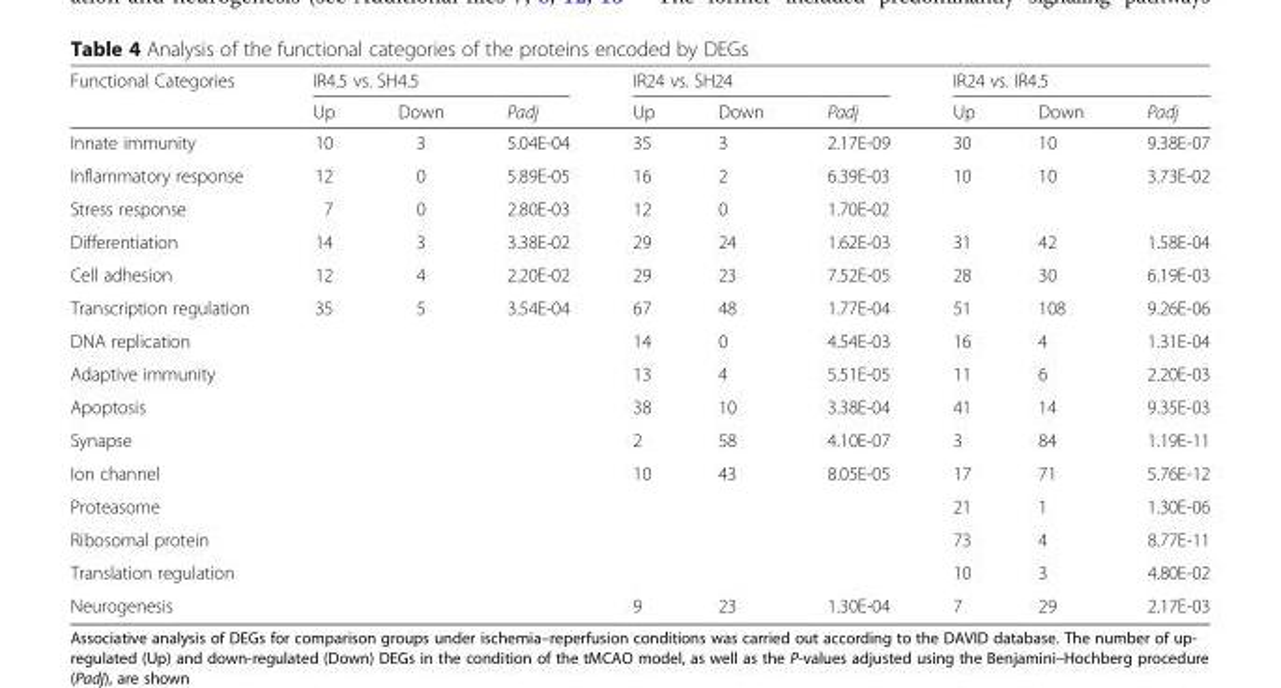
<table><thead><tr><td rowspan="2">Functional Categories</td><td colspan="3">IR4.5 vs. SH4.5</td><td colspan="3">IR24 vs. SH24</td><td colspan="3">IR24 vs. IR4.5</td></tr><tr><td>Up</td><td>Down</td><td>Padj</td><td>Up</td><td>Down</td><td>Padj</td><td>Up</td><td>Down</td><td>Padj</td></tr></thead><tbody><tr><td>Innate immunity</td><td>10</td><td>3</td><td>5.04E-04</td><td>35</td><td>3</td><td>2.17E-09</td><td>30</td><td>10</td><td>9.38E-07</td></tr><tr><td>Inflammatory response</td><td>12</td><td>0</td><td>5.89E-05</td><td>16</td><td>2</td><td>6.39E-03</td><td>10</td><td>10</td><td>3.73E-02</td></tr><tr><td>Stress response</td><td>7</td><td>0</td><td>2.80E-03</td><td>12</td><td>0</td><td>1.70E-02</td><td></td><td></td><td></td></tr><tr><td>Differentiation</td><td>14</td><td>3</td><td>3.38E-02</td><td>29</td><td>24</td><td>1.62E-03</td><td>31</td><td>42</td><td>1.58E-04</td></tr><tr><td>Cell adhesion</td><td>12</td><td>4</td><td>2.20E-02</td><td>29</td><td>23</td><td>7.52E-05</td><td>28</td><td>30</td><td>6.19E-03</td></tr><tr><td>Transcription regulation</td><td>35</td><td>5</td><td>3.54E-04</td><td>67</td><td>48</td><td>1.77E-04</td><td>51</td><td>108</td><td>9.26E-06</td></tr><tr><td>DNA replication</td><td></td><td></td><td></td><td>14</td><td>0</td><td>4.54E-03</td><td>16</td><td>4</td><td>1.31E-04</td></tr><tr><td>Adaptive immunity</td><td></td><td></td><td></td><td>13</td><td>4</td><td>5.51E-05</td><td>11</td><td>6</td><td>2.20E-03</td></tr><tr><td>Apoptosis</td><td></td><td></td><td></td><td>38</td><td>10</td><td>3.38E-04</td><td>41</td><td>14</td><td>9.35E-03</td></tr><tr><td>Synapse</td><td></td><td></td><td></td><td>2</td><td>58</td><td>4.10E-07</td><td>3</td><td>84</td><td>1.19E-11</td></tr><tr><td>Ion channel</td><td></td><td></td><td></td><td>10</td><td>43</td><td>8.05E-05</td><td>17</td><td>71</td><td>5.76E-12</td></tr><tr><td>Proteasome</td><td></td><td></td><td></td><td></td><td></td><td></td><td>21</td><td>1</td><td>1.30E-06</td></tr><tr><td>Ribosomal protein</td><td></td><td></td><td></td><td></td><td></td><td></td><td>73</td><td>4</td><td>8.77E-11</td></tr><tr><td>Translation regulation</td><td></td><td></td><td></td><td></td><td></td><td></td><td>10</td><td>3</td><td>4.80E-02</td></tr><tr><td>Neurogenesis</td><td></td><td></td><td></td><td>9</td><td>23</td><td>1.30E-04</td><td>7</td><td>29</td><td>2.17E-03</td></tr></tbody></table>